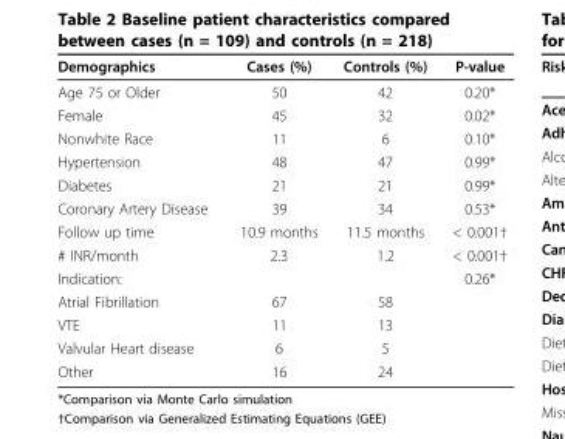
<table><thead><tr><td>Demographics</td><td>Cases (%)</td><td>Controls (%)</td><td>P-value</td></tr></thead><tbody><tr><td>Age 75 or Older</td><td>50</td><td>42</td><td>0.20*</td></tr><tr><td>Female</td><td>45</td><td>32</td><td>0.02*</td></tr><tr><td>Nonwhite Race</td><td>11</td><td>6</td><td>0.10*</td></tr><tr><td>Hypertension</td><td>48</td><td>47</td><td>0.99*</td></tr><tr><td>Diabetes</td><td>21</td><td>21</td><td>0.99*</td></tr><tr><td>Coronary Artery Disease</td><td>39</td><td>34</td><td>0.53*</td></tr><tr><td>Follow up time</td><td>10.9 months</td><td>11.5 months</td><td>&lt; 0.001†</td></tr><tr><td># INR/month</td><td>2.3</td><td>1.2</td><td>&lt; 0.001†</td></tr><tr><td>Indication:</td><td></td><td></td><td>0.26*</td></tr><tr><td>Atrial Fibrillation</td><td>67</td><td>58</td><td></td></tr><tr><td>VTE</td><td>11</td><td>13</td><td></td></tr><tr><td>Valvular Heart disease</td><td>6</td><td>5</td><td></td></tr><tr><td>Other</td><td>16</td><td>24</td><td></td></tr></tbody></table>